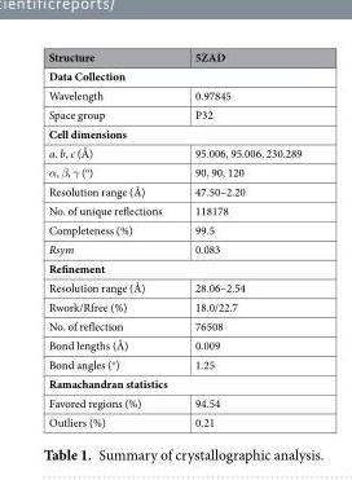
<table><thead><tr><td>Structure</td><td>5ZAD</td></tr></thead><tbody><tr><td colspan="2">Data Collection</td></tr><tr><td>Wavelength</td><td>0.97845</td></tr><tr><td>Space group</td><td>P32</td></tr><tr><td colspan="2">Cell dimensions</td></tr><tr><td>a, b, c (Å)</td><td>95.006, 95.006, 230.289</td></tr><tr><td>α, β, γ (<sup>o</sup>)</td><td>90, 90, 120</td></tr><tr><td>Resolution range (Å)</td><td>47.50–2.20</td></tr><tr><td>No. of unique reflections</td><td>118178</td></tr><tr><td>Completeness (%)</td><td>99.5</td></tr><tr><td>Rsym</td><td>0.083</td></tr><tr><td colspan="2">Refinement</td></tr><tr><td>Resolution range (Å)</td><td>28.06–2.54</td></tr><tr><td>Rwork/Rfree (%)</td><td>18.0/22.7</td></tr><tr><td>No. of reflection</td><td>76508</td></tr><tr><td>Bond lengths (Å)</td><td>0.009</td></tr><tr><td>Bond angles (<sup>o</sup>)</td><td>1.25</td></tr><tr><td colspan="2">Ramachandran statistics</td></tr><tr><td>Favored regions (%)</td><td>94.54</td></tr><tr><td>Outliers (%)</td><td>0.21</td></tr></tbody></table>